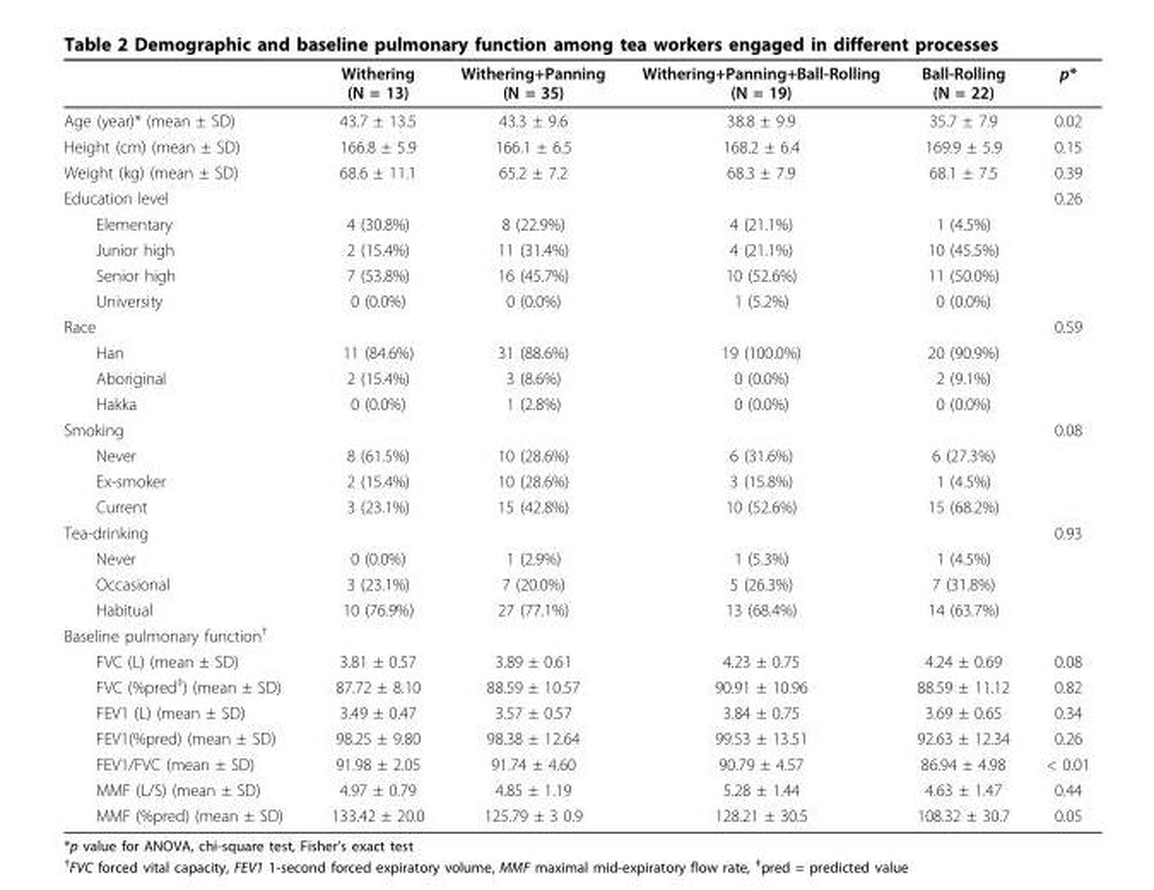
<table><thead><tr><td></td><td>Withering (N = 13)</td><td>Withering+Panning (N = 35)</td><td>Withering+Panning+Ball-Rolling (N = 19)</td><td>Ball-Rolling (N = 22)</td><td>p*</td></tr></thead><tbody><tr><td>Age (year)* (mean ± SD)</td><td>43.7 ± 13.5</td><td>43.3 ± 9.6</td><td>38.8 ± 9.9</td><td>35.7 ± 7.9</td><td>0.02</td></tr><tr><td>Height (cm) (mean ± SD)</td><td>166.8 ± 5.9</td><td>166.1 ± 6.5</td><td>168.2 ± 6.4</td><td>169.9 ± 5.9</td><td>0.15</td></tr><tr><td>Weight (kg) (mean ± SD)</td><td>68.6 ± 11.1</td><td>65.2 ± 7.2</td><td>68.3 ± 7.9</td><td>68.1 ± 7.5</td><td>0.39</td></tr><tr><td>Education level</td><td></td><td></td><td></td><td></td><td>0.26</td></tr><tr><td>Elementary</td><td>4 (30.8%)</td><td>8 (22.9%)</td><td>4 (21.1%)</td><td>1 (4.5%)</td><td></td></tr><tr><td>Junior high</td><td>2 (15.4%)</td><td>11 (31.4%)</td><td>4 (21.1%)</td><td>10 (45.5%)</td><td></td></tr><tr><td>Senior high</td><td>7 (53.8%)</td><td>16 (45.7%)</td><td>10 (52.6%)</td><td>11 (50.0%)</td><td></td></tr><tr><td>University</td><td>0 (0.0%)</td><td>0 (0.0%)</td><td>1 (5.2%)</td><td>0 (0.0%)</td><td></td></tr><tr><td>Race</td><td></td><td></td><td></td><td></td><td>0.59</td></tr><tr><td>Han</td><td>11 (84.6%)</td><td>31 (88.6%)</td><td>19 (100.0%)</td><td>20 (90.9%)</td><td></td></tr><tr><td>Aboriginal</td><td>2 (15.4%)</td><td>3 (8.6%)</td><td>0 (0.0%)</td><td>2 (9.1%)</td><td></td></tr><tr><td>Hakka</td><td>0 (0.0%)</td><td>1 (2.8%)</td><td>0 (0.0%)</td><td>0 (0.0%)</td><td></td></tr><tr><td>Smoking</td><td></td><td></td><td></td><td></td><td>0.08</td></tr><tr><td>Never</td><td>8 (61.5%)</td><td>10 (28.6%)</td><td>6 (31.6%)</td><td>6 (27.3%)</td><td></td></tr><tr><td>Ex-smoker</td><td>2 (15.4%)</td><td>10 (28.6%)</td><td>3 (15.8%)</td><td>1 (4.5%)</td><td></td></tr><tr><td>Current</td><td>3 (23.1%)</td><td>15 (42.8%)</td><td>10 (52.6%)</td><td>15 (68.2%)</td><td></td></tr><tr><td>Tea-drinking</td><td></td><td></td><td></td><td></td><td>0.93</td></tr><tr><td>Never</td><td>0 (0.0%)</td><td>1 (2.9%)</td><td>1 (5.3%)</td><td>1 (4.5%)</td><td></td></tr><tr><td>Occasional</td><td>3 (23.1%)</td><td>7 (20.0%)</td><td>5 (26.3%)</td><td>7 (31.8%)</td><td></td></tr><tr><td>Habitual</td><td>10 (76.9%)</td><td>27 (77.1%)</td><td>13 (68.4%)</td><td>14 (63.7%)</td><td></td></tr><tr><td colspan="6">Baseline pulmonary function<sup>†</sup></td></tr><tr><td>FVC (L) (mean ± SD)</td><td>3.81 ± 0.57</td><td>3.89 ± 0.61</td><td>4.23 ± 0.75</td><td>4.24 ± 0.69</td><td>0.08</td></tr><tr><td>FVC (%pred<sup>‡</sup>) (mean ± SD)</td><td>87.72 ± 8.10</td><td>88.59 ± 10.57</td><td>90.91 ± 10.96</td><td>88.59 ± 11.12</td><td>0.82</td></tr><tr><td>FEV1 (L) (mean ± SD)</td><td>3.49 ± 0.47</td><td>3.57 ± 0.57</td><td>3.84 ± 0.75</td><td>3.69 ± 0.65</td><td>0.34</td></tr><tr><td>FEV1(%pred) (mean ± SD)</td><td>98.25 ± 9.80</td><td>98.38 ± 12.64</td><td>99.53 ± 13.51</td><td>92.63 ± 12.34</td><td>0.26</td></tr><tr><td>FEV1/FVC (mean ± SD)</td><td>91.98 ± 2.05</td><td>91.74 ± 4.60</td><td>90.79 ± 4.57</td><td>86.94 ± 4.98</td><td>&lt; 0.01</td></tr><tr><td>MMF (L/S) (mean ± SD)</td><td>4.97 ± 0.79</td><td>4.85 ± 1.19</td><td>5.28 ± 1.44</td><td>4.63 ± 1.47</td><td>0.44</td></tr><tr><td>MMF (%pred) (mean ± SD)</td><td>133.42 ± 20.0</td><td>125.79 ± 3 0.9</td><td>128.21 ± 30.5</td><td>108.32 ± 30.7</td><td>0.05</td></tr></tbody></table>